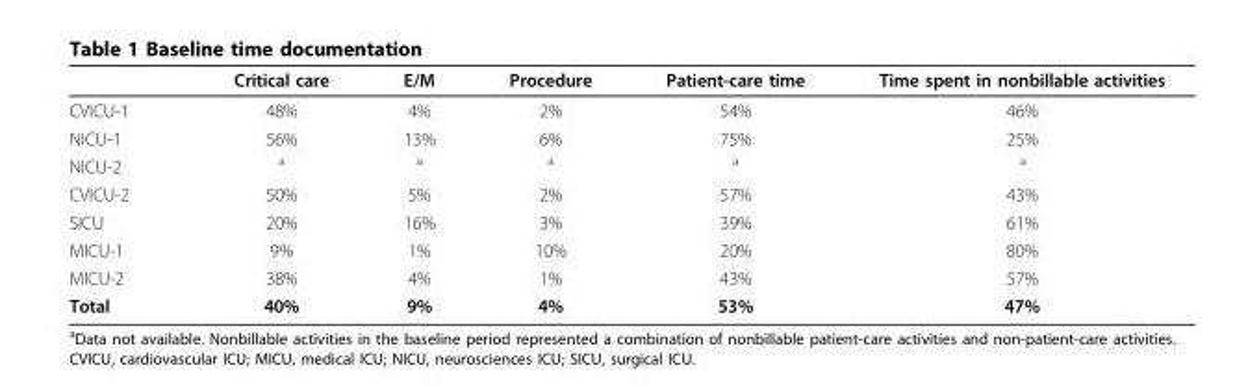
<table><thead><tr><td></td><td>Critical care</td><td>E/M</td><td>Procedure</td><td>Patient-care time</td><td>Time spent in nonbillable activities</td></tr></thead><tbody><tr><td>CVICU-1</td><td>48%</td><td>4%</td><td>2%</td><td>54%</td><td>46%</td></tr><tr><td>NICU-1</td><td>56%</td><td>13%</td><td>6%</td><td>75%</td><td>25%</td></tr><tr><td>NICU-2</td><td><sup>a</sup></td><td><sup>a</sup></td><td><sup>a</sup></td><td><sup>a</sup></td><td><sup>a</sup></td></tr><tr><td>CVICU-2</td><td>50%</td><td>5%</td><td>2%</td><td>57%</td><td>43%</td></tr><tr><td>SICU</td><td>20%</td><td>16%</td><td>3%</td><td>39%</td><td>61%</td></tr><tr><td>MICU-1</td><td>9%</td><td>1%</td><td>10%</td><td>20%</td><td>80%</td></tr><tr><td>MICU-2</td><td>38%</td><td>4%</td><td>1%</td><td>43%</td><td>57%</td></tr><tr><td>Total</td><td>40%</td><td>9%</td><td>4%</td><td>53%</td><td>47%</td></tr></tbody></table>